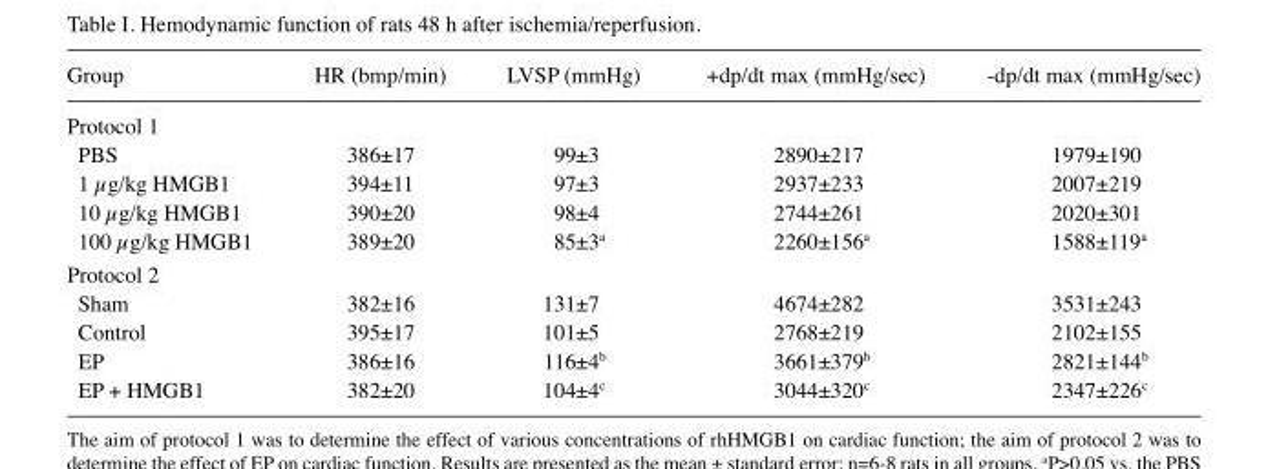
<table><thead><tr><td>Group</td><td>HR (bmp/min)</td><td>LVSP (mmHg)</td><td>+dp/dt max (mmHg/sec)</td><td>-dp/dt max (mmHg/sec)</td></tr></thead><tbody><tr><td colspan="5">Protocol 1</td></tr><tr><td>PBS</td><td>386±17</td><td>99±3</td><td>2890±217</td><td>1979±190</td></tr><tr><td>1 µg/kg HMGB1</td><td>394±11</td><td>97±3</td><td>2937±233</td><td>2007±219</td></tr><tr><td>10 µg/kg HMGB1</td><td>390±20</td><td>98±4</td><td>2744±261</td><td>2020±301</td></tr><tr><td>100 µg/kg HMGB1</td><td>389±20</td><td>85±3<sup>a</sup></td><td>2260±156<sup>a</sup></td><td>1588±119<sup>a</sup></td></tr><tr><td colspan="5">Protocol 2</td></tr><tr><td>Sham</td><td>382±16</td><td>131±7</td><td>4674±282</td><td>3531±243</td></tr><tr><td>Control</td><td>395±17</td><td>101±5</td><td>2768±219</td><td>2102±155</td></tr><tr><td>EP</td><td>386±16</td><td>116±4<sup>b</sup></td><td>3661±379<sup>b</sup></td><td>2821±144<sup>b</sup></td></tr><tr><td>EP + HMGB1</td><td>382±20</td><td>104±4<sup>c</sup></td><td>3044±320<sup>c</sup></td><td>2347±226<sup>c</sup></td></tr></tbody></table>